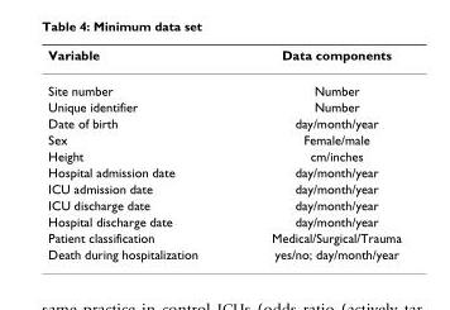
<table><thead><tr><td>Variable</td><td>Data components</td></tr></thead><tbody><tr><td>Site number</td><td>Number</td></tr><tr><td>Unique identifier</td><td>Number</td></tr><tr><td>Date of birth</td><td>day/month/year</td></tr><tr><td>Sex</td><td>Female/male</td></tr><tr><td>Height</td><td>cm/inches</td></tr><tr><td>Hospital admission date</td><td>day/month/year</td></tr><tr><td>ICU admission date</td><td>day/month/year</td></tr><tr><td>ICU discharge date</td><td>day/month/year</td></tr><tr><td>Hospital discharge date</td><td>day/month/year</td></tr><tr><td>Patient classification</td><td>Medical/Surgical/Trauma</td></tr><tr><td>Death during hospitalization</td><td>yes/no; day/month/year</td></tr></tbody></table>